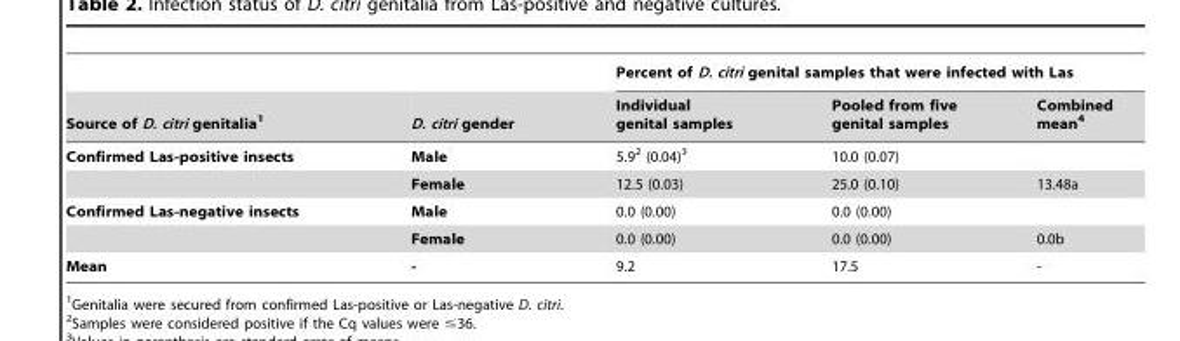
<table><thead><tr><td rowspan="2">Source of D. citri genitalia<sup>1</sup></td><td rowspan="2">D. citri gender</td><td colspan="3">Percent of D. citri genital samples that were infected with Las</td></tr><tr><td>Individual genital samples</td><td>Pooled from five genital samples</td><td>Combined mean<sup>4</sup></td></tr></thead><tbody><tr><td rowspan="2">Confirmed Las-positive insects</td><td>Male</td><td>5.9<sup>2</sup> (0.04)<sup>3</sup></td><td>10.0 (0.07)</td><td></td></tr><tr><td>Female</td><td>12.5 (0.03)</td><td>25.0 (0.10)</td><td>13.48a</td></tr><tr><td rowspan="2">Confirmed Las-negative insects</td><td>Male</td><td>0.0 (0.00)</td><td>0.0 (0.00)</td><td></td></tr><tr><td>Female</td><td>0.0 (0.00)</td><td>0.0 (0.00)</td><td>0.0b</td></tr><tr><td>Mean</td><td>-</td><td>9.2</td><td>17.5</td><td>-</td></tr></tbody></table>